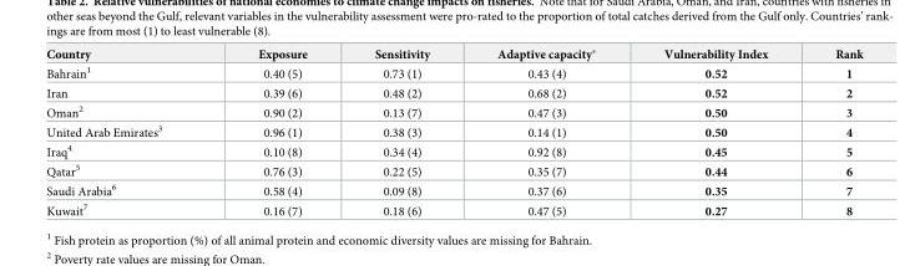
<table><thead><tr><td>Country</td><td>Exposure</td><td>Sensitivity</td><td>Adaptive capacity*</td><td>Vulnerability Index</td><td>Rank</td></tr></thead><tbody><tr><td>Bahrain<sup>1</sup></td><td>0.40 (5)</td><td>0.73 (1)</td><td>0.43 (4)</td><td>0.52</td><td>1</td></tr><tr><td>Iran</td><td>0.39 (6)</td><td>0.48 (2)</td><td>0.68 (2)</td><td>0.52</td><td>2</td></tr><tr><td>Oman<sup>2</sup></td><td>0.90 (2)</td><td>0.13 (7)</td><td>0.47 (3)</td><td>0.50</td><td>3</td></tr><tr><td>United Arab Emirates<sup>3</sup></td><td>0.96 (1)</td><td>0.38 (3)</td><td>0.14 (1)</td><td>0.50</td><td>4</td></tr><tr><td>Iraq<sup>4</sup></td><td>0.10 (8)</td><td>0.34 (4)</td><td>0.92 (8)</td><td>0.45</td><td>5</td></tr><tr><td>Qatar<sup>5</sup></td><td>0.76 (3)</td><td>0.22 (5)</td><td>0.35 (7)</td><td>0.44</td><td>6</td></tr><tr><td>Saudi Arabia<sup>6</sup></td><td>0.58 (4)</td><td>0.09 (8)</td><td>0.37 (6)</td><td>0.35</td><td>7</td></tr><tr><td>Kuwait<sup>7</sup></td><td>0.16 (7)</td><td>0.18 (6)</td><td>0.47 (5)</td><td>0.27</td><td>8</td></tr></tbody></table>